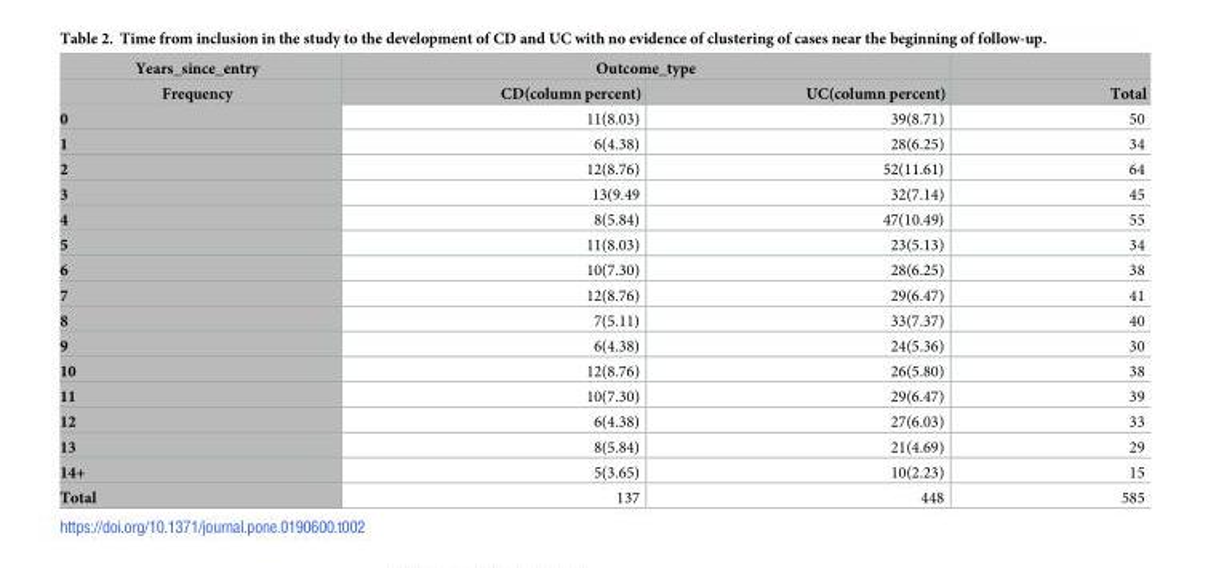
<table><thead><tr><td rowspan="2">Years_since_entry Frequency</td><td colspan="2">Outcome_type</td><td rowspan="2">Total</td></tr><tr><td>CD(column percent)</td><td>UC(column percent)</td></tr></thead><tbody><tr><td>0</td><td>11(8.03)</td><td>39(8.71)</td><td>50</td></tr><tr><td>1</td><td>6(4.38)</td><td>28(6.25)</td><td>34</td></tr><tr><td>2</td><td>12(8.76)</td><td>52(11.61)</td><td>64</td></tr><tr><td>3</td><td>13(9.49</td><td>32(7.14)</td><td>45</td></tr><tr><td>4</td><td>8(5.84)</td><td>47(10.49)</td><td>55</td></tr><tr><td>5</td><td>11(8.03)</td><td>23(5.13)</td><td>34</td></tr><tr><td>6</td><td>10(7.30)</td><td>28(6.25)</td><td>38</td></tr><tr><td>7</td><td>12(8.76)</td><td>29(6.47)</td><td>41</td></tr><tr><td>8</td><td>7(5.11)</td><td>33(7.37)</td><td>40</td></tr><tr><td>9</td><td>6(4.38)</td><td>24(5.36)</td><td>30</td></tr><tr><td>10</td><td>12(8.76)</td><td>26(5.80)</td><td>38</td></tr><tr><td>11</td><td>10(7.30)</td><td>29(6.47)</td><td>39</td></tr><tr><td>12</td><td>6(4.38)</td><td>27(6.03)</td><td>33</td></tr><tr><td>13</td><td>8(5.84)</td><td>21(4.69)</td><td>29</td></tr><tr><td>14+</td><td>5(3.65)</td><td>10(2.23)</td><td>15</td></tr><tr><td>Total</td><td>137</td><td>448</td><td>585</td></tr></tbody></table>